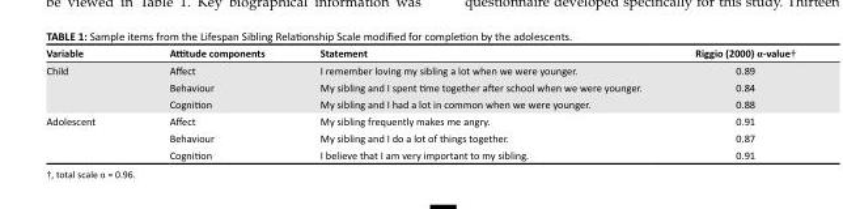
<table><thead><tr><td>Variable</td><td>Attitude components</td><td>Statement</td><td>Riggio (2000) α-value†</td></tr></thead><tbody><tr><td rowspan="3">Child</td><td>Affect</td><td>I remember loving my sibling a lot when we were younger.</td><td>0.89</td></tr><tr><td>Behaviour</td><td>My sibling and I spent time together after school when we were younger.</td><td>0.84</td></tr><tr><td>Cognition</td><td>My sibling and I had a lot in common when we were younger.</td><td>0.88</td></tr><tr><td rowspan="3">Adolescent</td><td>Affect</td><td>My sibling frequently makes me angry.</td><td>0.91</td></tr><tr><td>Behaviour</td><td>My sibling and I do a lot of things together.</td><td>0.87</td></tr><tr><td>Cognition</td><td>I believe that I am very important to my sibling.</td><td>0.91</td></tr></tbody></table>